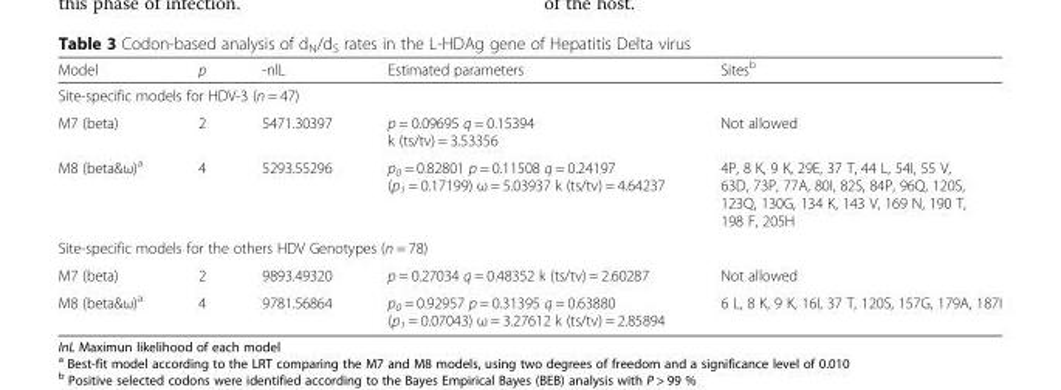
<table><thead><tr><td>Model</td><td>p</td><td>-nlL</td><td>Estimated parameters</td><td>Sites<sup>b</sup></td></tr></thead><tbody><tr><td colspan="5">Site-specific models for HDV-3 (n = 47)</td></tr><tr><td>M7 (beta)</td><td>2</td><td>5471.30397</td><td>p = 0.09695 q = 0.15394 k (ts/tv) = 3.53356</td><td>Not allowed</td></tr><tr><td>M8 (beta&amp;ω)<sup>a</sup></td><td>4</td><td>5293.55296</td><td>p<sub>0</sub> = 0.82801 p = 0.11508 q = 0.24197 (p<sub>1</sub> = 0.17199) ω = 5.03937 k (ts/tv) = 4.64237</td><td>4P, 8 K, 9 K, 29E, 37 T, 44 L, 54I, 55 V, 63D, 73P, 77A, 80I, 82S, 84P, 96Q, 120S, 123Q, 130G, 134 K, 143 V, 169 N, 190 T, 198 F, 205H</td></tr><tr><td colspan="5">Site-specific models for the others HDV Genotypes (n = 78)</td></tr><tr><td>M7 (beta)</td><td>2</td><td>9893.49320</td><td>p = 0.27034 q = 0.48352 k (ts/tv) = 2.60287</td><td>Not allowed</td></tr><tr><td>M8 (beta&amp;ω)<sup>a</sup></td><td>4</td><td>9781.56864</td><td>p<sub>0</sub> = 0.92957 p = 0.31395 q = 0.63880 (p<sub>1</sub> = 0.07043) ω = 3.27612 k (ts/tv) = 2.85894</td><td>6 L, 8 K, 9 K, 16I, 37 T, 120S, 157G, 179A, 187I</td></tr></tbody></table>